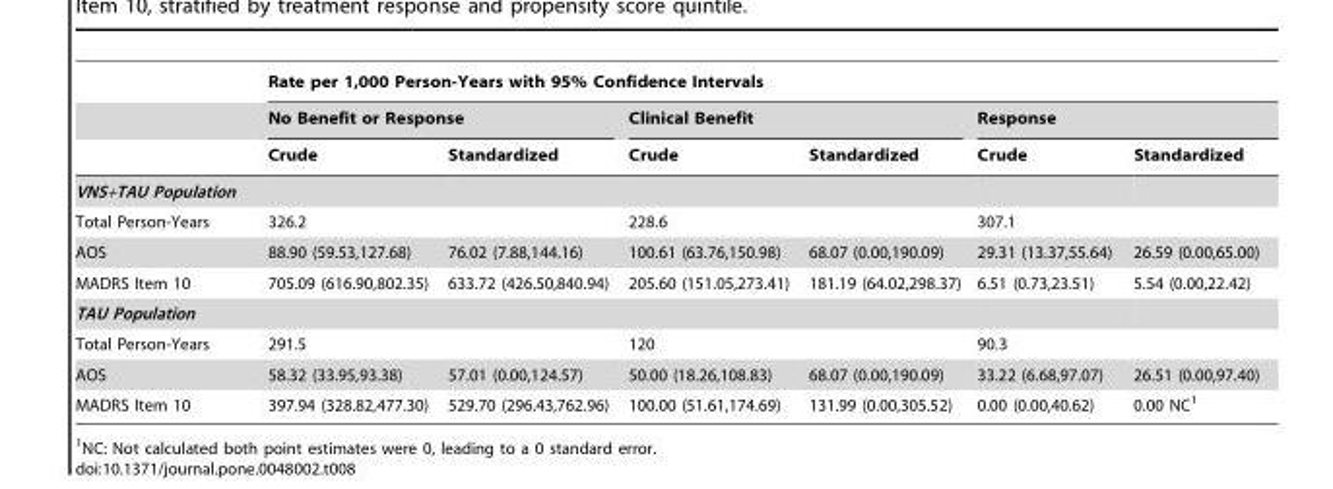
<table><thead><tr><td rowspan="3"></td><td colspan="6">Rate per 1,000 Person-Years with 95% Confidence Intervals</td></tr><tr><td colspan="2">No Benefit or Response</td><td colspan="2">Clinical Benefit</td><td colspan="2">Response</td></tr><tr><td>Crude</td><td>Standardized</td><td>Crude</td><td>Standardized</td><td>Crude</td><td>Standardized</td></tr></thead><tbody><tr><td colspan="7">VNS+TAU Population</td></tr><tr><td>Total Person-Years</td><td>326.2</td><td></td><td>228.6</td><td></td><td>307.1</td><td></td></tr><tr><td>AOS</td><td>88.90 (59.53,127.68)</td><td>76.02 (7.88,144.16)</td><td>100.61 (63.76,150.98)</td><td>68.07 (0.00,190.09)</td><td>29.31 (13.37,55.64)</td><td>26.59 (0.00,65.00)</td></tr><tr><td>MADRS Item 10</td><td>705.09 (616.90,802.35)</td><td>633.72 (426.50,840.94)</td><td>205.60 (151.05,273.41)</td><td>181.19 (64.02,298.37)</td><td>6.51 (0.73,23.51)</td><td>5.54 (0.00,22.42)</td></tr><tr><td colspan="7">TAU Population</td></tr><tr><td>Total Person-Years</td><td>291.5</td><td></td><td>120</td><td></td><td>90.3</td><td></td></tr><tr><td>AOS</td><td>58.32 (33.95,93.38)</td><td>57.01 (0.00,124.57)</td><td>50.00 (18.26,108.83)</td><td>68.07 (0.00,190.09)</td><td>33.22 (6.68,97.07)</td><td>26.51 (0.00,97.40)</td></tr><tr><td>MADRS Item 10</td><td>397.94 (328.82,477.30)</td><td>529.70 (296.43,762.96)</td><td>100.00 (51.61,174.69)</td><td>131.99 (0.00,305.52)</td><td>0.00 (0.00,40.62)</td><td>0.00 NC<sup>1</sup></td></tr></tbody></table>